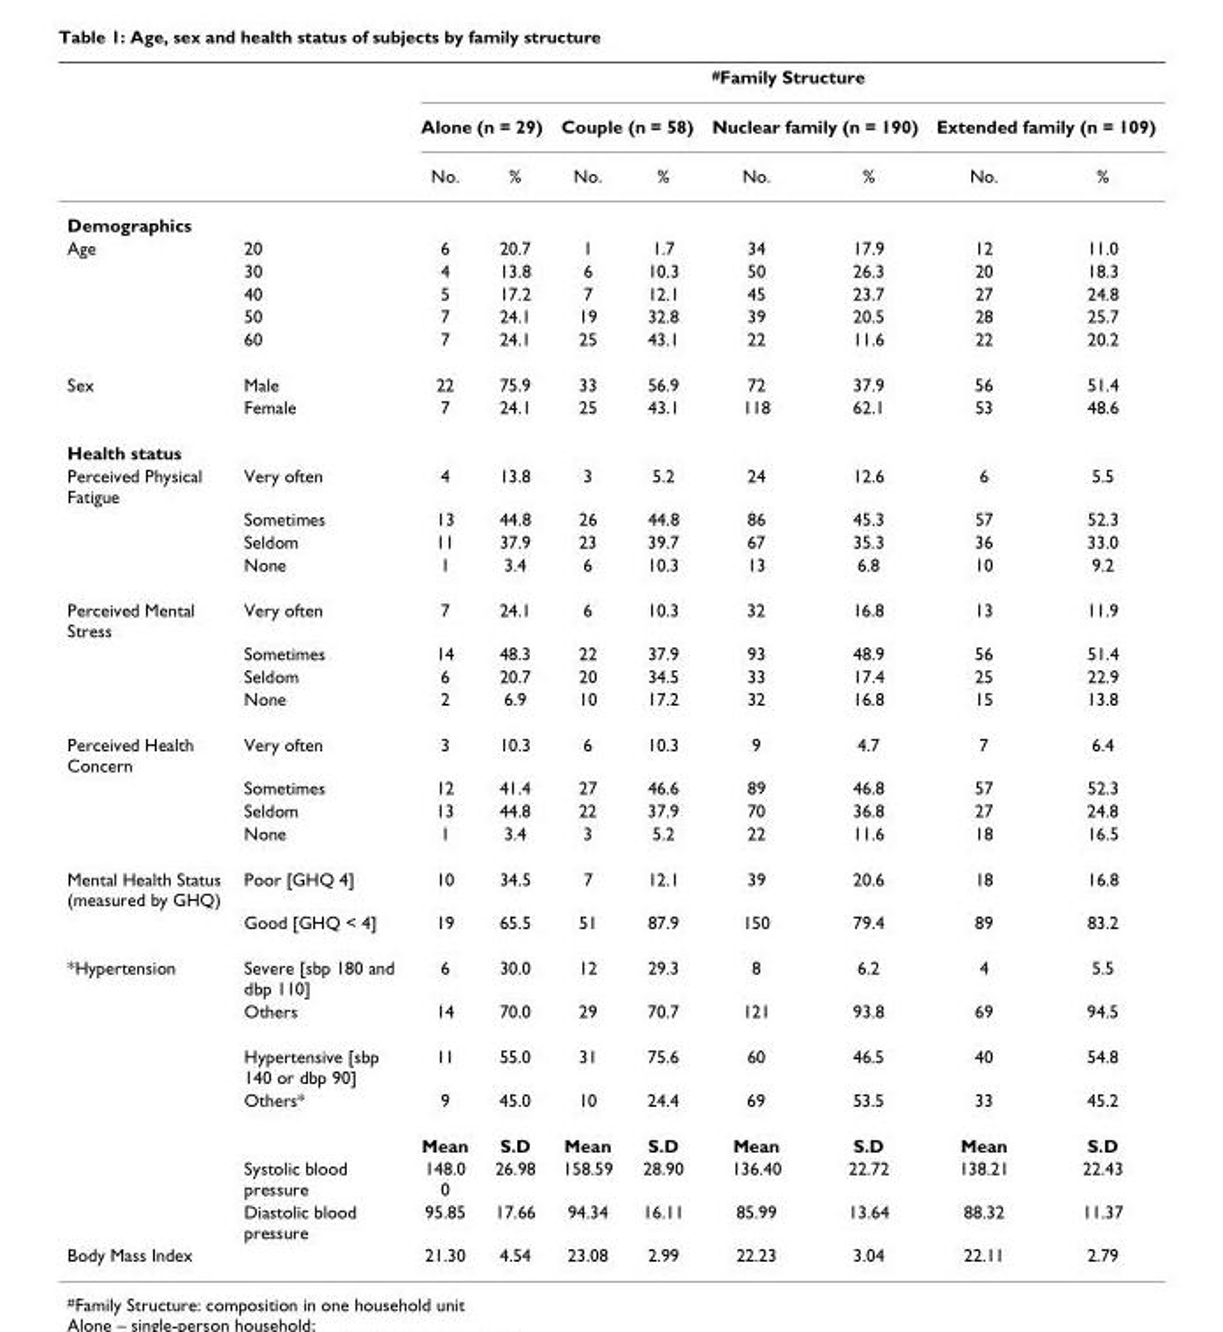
<table><thead><tr><td rowspan="3"></td><td rowspan="3"></td><td colspan="8"><sup>#</sup>Family Structure</td></tr><tr><td colspan="2">Alone (n = 29)</td><td colspan="2">Couple (n = 58)</td><td colspan="2">Nuclear family (n = 190)</td><td colspan="2">Extended family (n = 109)</td></tr><tr><td>No.</td><td>%</td><td>No.</td><td>%</td><td>No.</td><td>%</td><td>No.</td><td>%</td></tr></thead><tbody><tr><td colspan="10">Demographics</td></tr><tr><td rowspan="5">Age</td><td>20</td><td>6</td><td>20.7</td><td>1</td><td>1.7</td><td>34</td><td>17.9</td><td>12</td><td>11.0</td></tr><tr><td>30</td><td>4</td><td>13.8</td><td>6</td><td>10.3</td><td>50</td><td>26.3</td><td>20</td><td>18.3</td></tr><tr><td>40</td><td>5</td><td>17.2</td><td>7</td><td>12.1</td><td>45</td><td>23.7</td><td>27</td><td>24.8</td></tr><tr><td>50</td><td>7</td><td>24.1</td><td>19</td><td>32.8</td><td>39</td><td>20.5</td><td>28</td><td>25.7</td></tr><tr><td>60</td><td>7</td><td>24.1</td><td>25</td><td>43.1</td><td>22</td><td>11.6</td><td>22</td><td>20.2</td></tr><tr><td rowspan="2">Sex</td><td>Male</td><td>22</td><td>75.9</td><td>33</td><td>56.9</td><td>72</td><td>37.9</td><td>56</td><td>51.4</td></tr><tr><td>Female</td><td>7</td><td>24.1</td><td>25</td><td>43.1</td><td>118</td><td>62.1</td><td>53</td><td>48.6</td></tr><tr><td colspan="10">Health status</td></tr><tr><td rowspan="4">Perceived Physical Fatigue</td><td>Very often</td><td>4</td><td>13.8</td><td>3</td><td>5.2</td><td>24</td><td>12.6</td><td>6</td><td>5.5</td></tr><tr><td>Sometimes</td><td>13</td><td>44.8</td><td>26</td><td>44.8</td><td>86</td><td>45.3</td><td>57</td><td>52.3</td></tr><tr><td>Seldom</td><td>11</td><td>37.9</td><td>23</td><td>39.7</td><td>67</td><td>35.3</td><td>36</td><td>33.0</td></tr><tr><td>None</td><td>1</td><td>3.4</td><td>6</td><td>10.3</td><td>13</td><td>6.8</td><td>10</td><td>9.2</td></tr><tr><td rowspan="4">Perceived Mental Stress</td><td>Very often</td><td>7</td><td>24.1</td><td>6</td><td>10.3</td><td>32</td><td>16.8</td><td>13</td><td>11.9</td></tr><tr><td>Sometimes</td><td>14</td><td>48.3</td><td>22</td><td>37.9</td><td>93</td><td>48.9</td><td>56</td><td>51.4</td></tr><tr><td>Seldom</td><td>6</td><td>20.7</td><td>20</td><td>34.5</td><td>33</td><td>17.4</td><td>25</td><td>22.9</td></tr><tr><td>None</td><td>2</td><td>6.9</td><td>10</td><td>17.2</td><td>32</td><td>16.8</td><td>15</td><td>13.8</td></tr><tr><td rowspan="4">Perceived Health Concern</td><td>Very often</td><td>3</td><td>10.3</td><td>6</td><td>10.3</td><td>9</td><td>4.7</td><td>7</td><td>6.4</td></tr><tr><td>Sometimes</td><td>12</td><td>41.4</td><td>27</td><td>46.6</td><td>89</td><td>46.8</td><td>57</td><td>52.3</td></tr><tr><td>Seldom</td><td>13</td><td>44.8</td><td>22</td><td>37.9</td><td>70</td><td>36.8</td><td>27</td><td>24.8</td></tr><tr><td>None</td><td>1</td><td>3.4</td><td>3</td><td>5.2</td><td>22</td><td>11.6</td><td>18</td><td>16.5</td></tr><tr><td rowspan="2">Mental Health Status (measured by GHQ)</td><td>Poor [GHQ 4]</td><td>10</td><td>34.5</td><td>7</td><td>12.1</td><td>39</td><td>20.6</td><td>18</td><td>16.8</td></tr><tr><td>Good [GHQ &lt; 4]</td><td>19</td><td>65.5</td><td>51</td><td>87.9</td><td>150</td><td>79.4</td><td>89</td><td>83.2</td></tr><tr><td rowspan="7">*Hypertension</td><td>Severe [sbp 180 and dbp 110]</td><td>6</td><td>30.0</td><td>12</td><td>29.3</td><td>8</td><td>6.2</td><td>4</td><td>5.5</td></tr><tr><td>Others</td><td>14</td><td>70.0</td><td>29</td><td>70.7</td><td>121</td><td>93.8</td><td>69</td><td>94.5</td></tr><tr><td>Hypertensive [sbp 140 or dbp 90]</td><td>11</td><td>55.0</td><td>31</td><td>75.6</td><td>60</td><td>46.5</td><td>40</td><td>54.8</td></tr><tr><td>Others*</td><td>9</td><td>45.0</td><td>10</td><td>24.4</td><td>69</td><td>53.5</td><td>33</td><td>45.2</td></tr><tr><td></td><td>Mean</td><td>S.D</td><td>Mean</td><td>S.D</td><td>Mean</td><td>S.D</td><td>Mean</td><td>S.D</td></tr><tr><td>Systolic blood pressure</td><td>148.0 0</td><td>26.98</td><td>158.59</td><td>28.90</td><td>136.40</td><td>22.72</td><td>138.21</td><td>22.43</td></tr><tr><td>Diastolic blood pressure</td><td>95.85</td><td>17.66</td><td>94.34</td><td>16.11</td><td>85.99</td><td>13.64</td><td>88.32</td><td>11.37</td></tr><tr><td>Body Mass Index</td><td></td><td>21.30</td><td>4.54</td><td>23.08</td><td>2.99</td><td>22.23</td><td>3.04</td><td>22.11</td><td>2.79</td></tr></tbody></table>